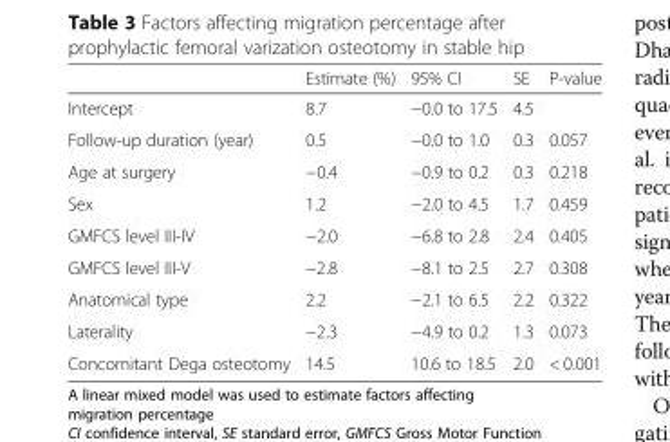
<table><thead><tr><td></td><td>Estimate (%)</td><td>95% CI</td><td>SE</td><td>P-value</td></tr></thead><tbody><tr><td>Intercept</td><td>8.7</td><td>−0.0 to 17.5</td><td>4.5</td><td></td></tr><tr><td>Follow-up duration (year)</td><td>0.5</td><td>−0.0 to 1.0</td><td>0.3</td><td>0.057</td></tr><tr><td>Age at surgery</td><td>−0.4</td><td>−0.9 to 0.2</td><td>0.3</td><td>0.218</td></tr><tr><td>Sex</td><td>1.2</td><td>−2.0 to 4.5</td><td>1.7</td><td>0.459</td></tr><tr><td>GMFCS level III-IV</td><td>−2.0</td><td>−6.8 to 2.8</td><td>2.4</td><td>0.405</td></tr><tr><td>GMFCS level III-V</td><td>−2.8</td><td>−8.1 to 2.5</td><td>2.7</td><td>0.308</td></tr><tr><td>Anatomical type</td><td>2.2</td><td>−2.1 to 6.5</td><td>2.2</td><td>0.322</td></tr><tr><td>Laterality</td><td>−2.3</td><td>−4.9 to 0.2</td><td>1.3</td><td>0.073</td></tr><tr><td>Concomitant Dega osteotomy</td><td>14.5</td><td>10.6 to 18.5</td><td>2.0</td><td>&lt; 0.001</td></tr></tbody></table>